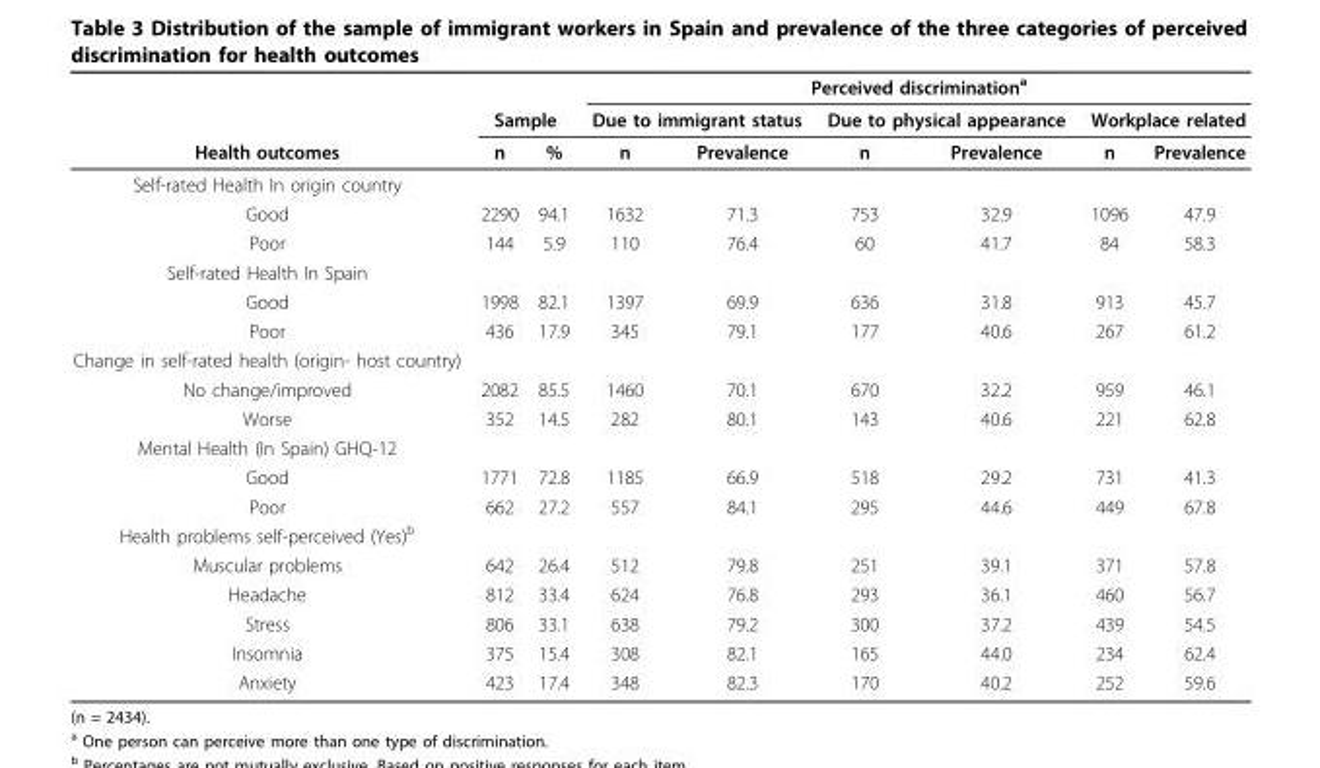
<table><thead><tr><td rowspan="3">Health outcomes</td><td></td><td></td><td colspan="6">Perceived discrimination<sup>a</sup></td></tr><tr><td colspan="2">Sample</td><td colspan="2">Due to immigrant status</td><td colspan="2">Due to physical appearance</td><td colspan="2">Workplace related</td></tr><tr><td>n</td><td>%</td><td>n</td><td>Prevalence</td><td>n</td><td>Prevalence</td><td>n</td><td>Prevalence</td></tr></thead><tbody><tr><td colspan="9">Self-rated Health In origin country</td></tr><tr><td>Good</td><td>2290</td><td>94.1</td><td>1632</td><td>71.3</td><td>753</td><td>32.9</td><td>1096</td><td>47.9</td></tr><tr><td>Poor</td><td>144</td><td>5.9</td><td>110</td><td>76.4</td><td>60</td><td>41.7</td><td>84</td><td>58.3</td></tr><tr><td colspan="9">Self-rated Health In Spain</td></tr><tr><td>Good</td><td>1998</td><td>82.1</td><td>1397</td><td>69.9</td><td>636</td><td>31.8</td><td>913</td><td>45.7</td></tr><tr><td>Poor</td><td>436</td><td>17.9</td><td>345</td><td>79.1</td><td>177</td><td>40.6</td><td>267</td><td>61.2</td></tr><tr><td colspan="9">Change in self-rated health (origin- host country)</td></tr><tr><td>No change/improved</td><td>2082</td><td>85.5</td><td>1460</td><td>70.1</td><td>670</td><td>32.2</td><td>959</td><td>46.1</td></tr><tr><td>Worse</td><td>352</td><td>14.5</td><td>282</td><td>80.1</td><td>143</td><td>40.6</td><td>221</td><td>62.8</td></tr><tr><td colspan="9">Mental Health (In Spain) GHQ-12</td></tr><tr><td>Good</td><td>1771</td><td>72.8</td><td>1185</td><td>66.9</td><td>518</td><td>29.2</td><td>731</td><td>41.3</td></tr><tr><td>Poor</td><td>662</td><td>27.2</td><td>557</td><td>84.1</td><td>295</td><td>44.6</td><td>449</td><td>67.8</td></tr><tr><td colspan="9">Health problems self-perceived (Yes)<sup>b</sup></td></tr><tr><td>Muscular problems</td><td>642</td><td>26.4</td><td>512</td><td>79.8</td><td>251</td><td>39.1</td><td>371</td><td>57.8</td></tr><tr><td>Headache</td><td>812</td><td>33.4</td><td>624</td><td>76.8</td><td>293</td><td>36.1</td><td>460</td><td>56.7</td></tr><tr><td>Stress</td><td>806</td><td>33.1</td><td>638</td><td>79.2</td><td>300</td><td>37.2</td><td>439</td><td>54.5</td></tr><tr><td>Insomnia</td><td>375</td><td>15.4</td><td>308</td><td>82.1</td><td>165</td><td>44.0</td><td>234</td><td>62.4</td></tr><tr><td>Anxiety</td><td>423</td><td>17.4</td><td>348</td><td>82.3</td><td>170</td><td>40.2</td><td>252</td><td>59.6</td></tr></tbody></table>